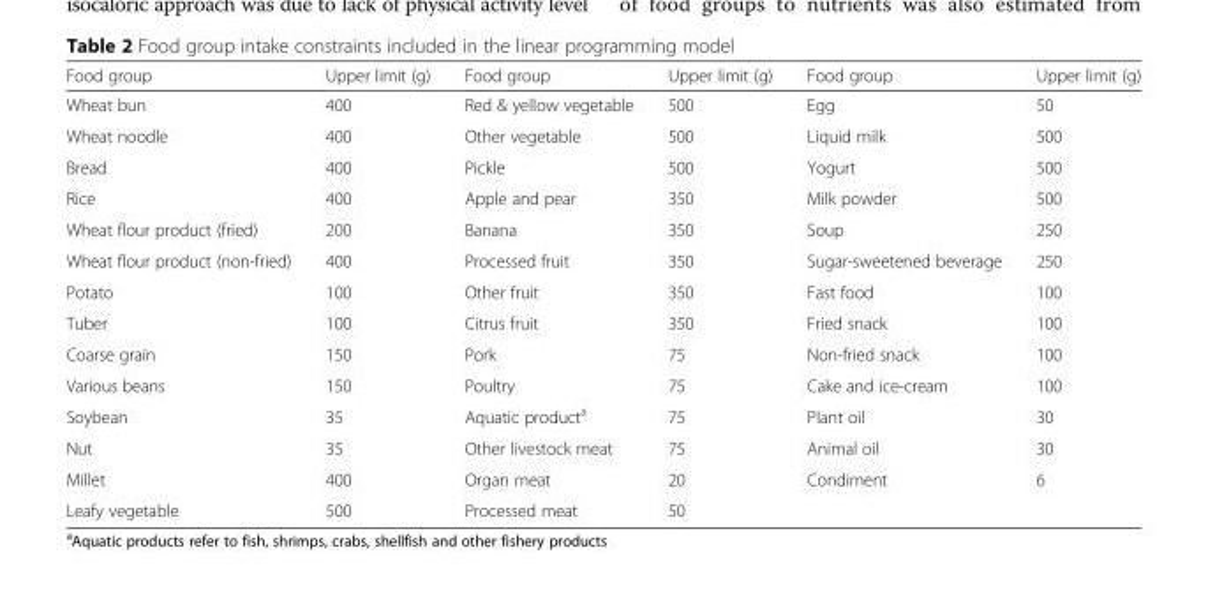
<table><thead><tr><td>Food group</td><td>Upper limit (g)</td><td>Food group</td><td>Upper limit (g)</td><td>Food group</td><td>Upper limit (g)</td></tr></thead><tbody><tr><td>Wheat bun</td><td>400</td><td>Red &amp; yellow vegetable</td><td>500</td><td>Egg</td><td>50</td></tr><tr><td>Wheat noodle</td><td>400</td><td>Other vegetable</td><td>500</td><td>Liquid milk</td><td>500</td></tr><tr><td>Bread</td><td>400</td><td>Pickle</td><td>500</td><td>Yogurt</td><td>500</td></tr><tr><td>Rice</td><td>400</td><td>Apple and pear</td><td>350</td><td>Milk powder</td><td>500</td></tr><tr><td>Wheat flour product (fried)</td><td>200</td><td>Banana</td><td>350</td><td>Soup</td><td>250</td></tr><tr><td>Wheat flour product (non-fried)</td><td>400</td><td>Processed fruit</td><td>350</td><td>Sugar-sweetened beverage</td><td>250</td></tr><tr><td>Potato</td><td>100</td><td>Other fruit</td><td>350</td><td>Fast food</td><td>100</td></tr><tr><td>Tuber</td><td>100</td><td>Citrus fruit</td><td>350</td><td>Fried snack</td><td>100</td></tr><tr><td>Coarse grain</td><td>150</td><td>Pork</td><td>75</td><td>Non-fried snack</td><td>100</td></tr><tr><td>Various beans</td><td>150</td><td>Poultry</td><td>75</td><td>Cake and ice-cream</td><td>100</td></tr><tr><td>Soybean</td><td>35</td><td>Aquatic product<sup>a</sup></td><td>75</td><td>Plant oil</td><td>30</td></tr><tr><td>Nut</td><td>35</td><td>Other livestock meat</td><td>75</td><td>Animal oil</td><td>30</td></tr><tr><td>Millet</td><td>400</td><td>Organ meat</td><td>20</td><td>Condiment</td><td>6</td></tr><tr><td>Leafy vegetable</td><td>500</td><td>Processed meat</td><td>50</td><td></td><td></td></tr></tbody></table>